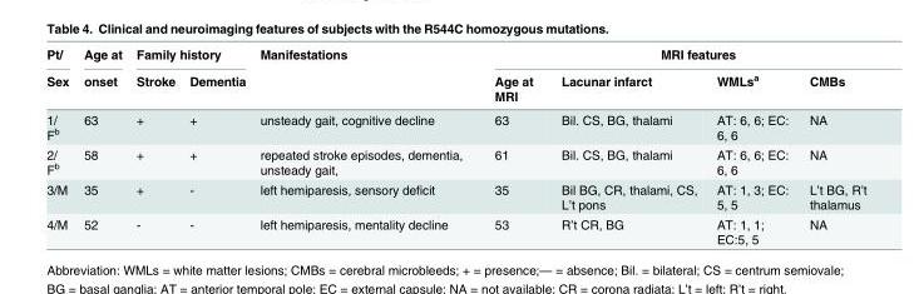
<table><thead><tr><td rowspan="2">Pt/ Sex</td><td rowspan="2">Age at onset</td><td colspan="2">Family history</td><td rowspan="2">Manifestations</td><td colspan="4">MRI features</td></tr><tr><td>Stroke</td><td>Dementia</td><td>Age at MRI</td><td>Lacunar infarct</td><td>WMLs<sup>a</sup></td><td>CMBs</td></tr></thead><tbody><tr><td>1/ F<sup>b</sup></td><td>63</td><td>+</td><td>+</td><td>unsteady gait, cognitive decline</td><td>63</td><td>Bil. CS, BG, thalami</td><td>AT: 6, 6; EC: 6, 6</td><td>NA</td></tr><tr><td>2/ F<sup>b</sup></td><td>58</td><td>+</td><td>+</td><td>repeated stroke episodes, dementia, unsteady gait,</td><td>61</td><td>Bil. CS, BG, thalami</td><td>AT: 6, 6; EC: 6, 6</td><td>NA</td></tr><tr><td>3/M</td><td>35</td><td>+</td><td>-</td><td>left hemiparesis, sensory deficit</td><td>35</td><td>Bil BG, CR, thalami, CS, L’t pons</td><td>AT: 1, 3; EC: 5, 5</td><td>L’t BG, R’t thalamus</td></tr><tr><td>4/M</td><td>52</td><td>-</td><td>-</td><td>left hemiparesis, mentality decline</td><td>53</td><td>R’t CR, BG</td><td>AT: 1, 1; EC:5, 5</td><td>NA</td></tr></tbody></table>